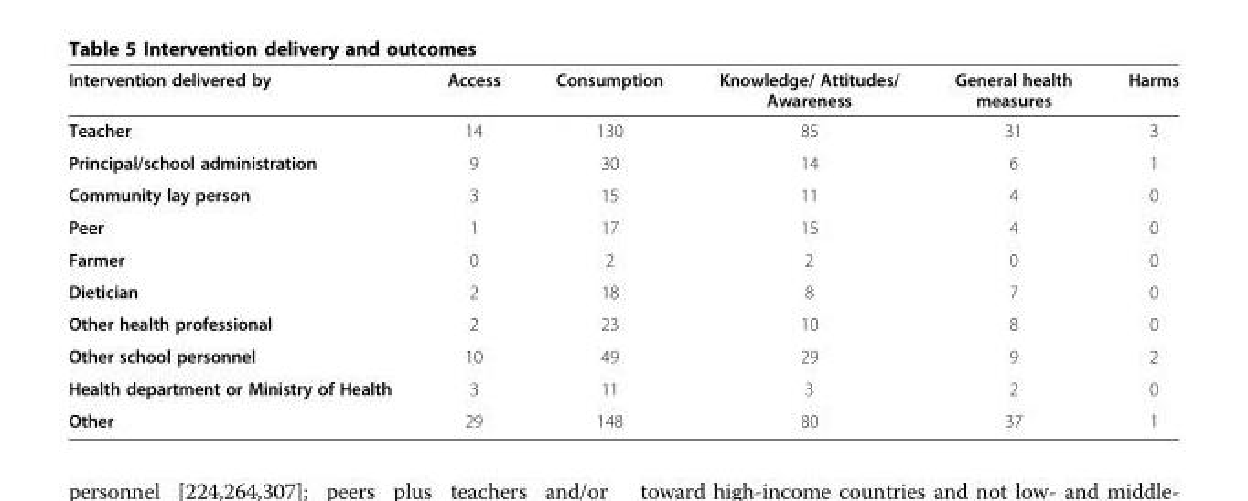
<table><thead><tr><td>Intervention delivered by</td><td>Access</td><td>Consumption</td><td>Knowledge/ Attitudes/ Awareness</td><td>General health measures</td><td>Harms</td></tr></thead><tbody><tr><td>Teacher</td><td>14</td><td>130</td><td>85</td><td>31</td><td>3</td></tr><tr><td>Principal/school administration</td><td>9</td><td>30</td><td>14</td><td>6</td><td>1</td></tr><tr><td>Community lay person</td><td>3</td><td>15</td><td>11</td><td>4</td><td>0</td></tr><tr><td>Peer</td><td>1</td><td>17</td><td>15</td><td>4</td><td>0</td></tr><tr><td>Farmer</td><td>0</td><td>2</td><td>2</td><td>0</td><td>0</td></tr><tr><td>Dietician</td><td>2</td><td>18</td><td>8</td><td>7</td><td>0</td></tr><tr><td>Other health professional</td><td>2</td><td>23</td><td>10</td><td>8</td><td>0</td></tr><tr><td>Other school personnel</td><td>10</td><td>49</td><td>29</td><td>9</td><td>2</td></tr><tr><td>Health department or Ministry of Health</td><td>3</td><td>11</td><td>3</td><td>2</td><td>0</td></tr><tr><td>Other</td><td>29</td><td>148</td><td>80</td><td>37</td><td>1</td></tr></tbody></table>